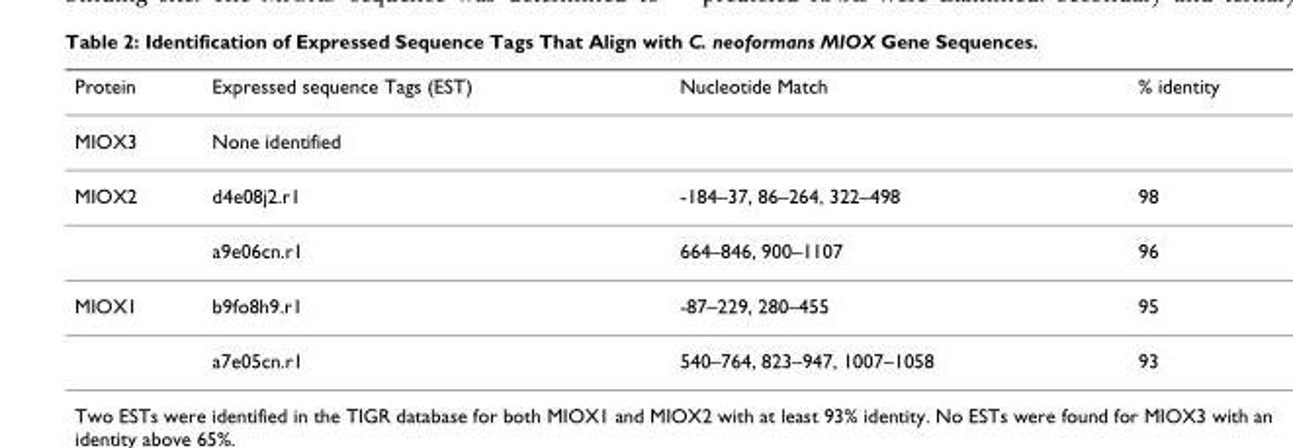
<table><thead><tr><td>Protein</td><td>Expressed sequence Tags (EST)</td><td>Nucleotide Match</td><td>% identity</td></tr></thead><tbody><tr><td>MIOX3</td><td>None identified</td><td></td><td></td></tr><tr><td rowspan="2">MIOX2</td><td>d4e08j2.r1</td><td>-184–37, 86–264, 322–498</td><td>98</td></tr><tr><td>a9e06cn.r1</td><td>664–846, 900–1107</td><td>96</td></tr><tr><td rowspan="2">MIOX1</td><td>b9fo8h9.r1</td><td>-87–229, 280–455</td><td>95</td></tr><tr><td>a7e05cn.r1</td><td>540–764, 823–947, 1007–1058</td><td>93</td></tr></tbody></table>